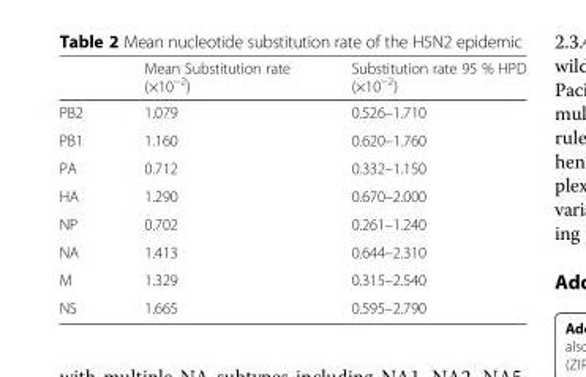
<table><thead><tr><td></td><td>Mean Substitution rate (×10<sup>−2</sup>)</td><td>Substitution rate 95 % HPD (×10<sup>−2</sup>)</td></tr></thead><tbody><tr><td>PB2</td><td>1.079</td><td>0.526–1.710</td></tr><tr><td>PB1</td><td>1.160</td><td>0.620–1.760</td></tr><tr><td>PA</td><td>0.712</td><td>0.332–1.150</td></tr><tr><td>HA</td><td>1.290</td><td>0.670–2.000</td></tr><tr><td>NP</td><td>0.702</td><td>0.261–1.240</td></tr><tr><td>NA</td><td>1.413</td><td>0.644–2.310</td></tr><tr><td>M</td><td>1.329</td><td>0.315–2.540</td></tr><tr><td>NS</td><td>1.665</td><td>0.595–2.790</td></tr></tbody></table>